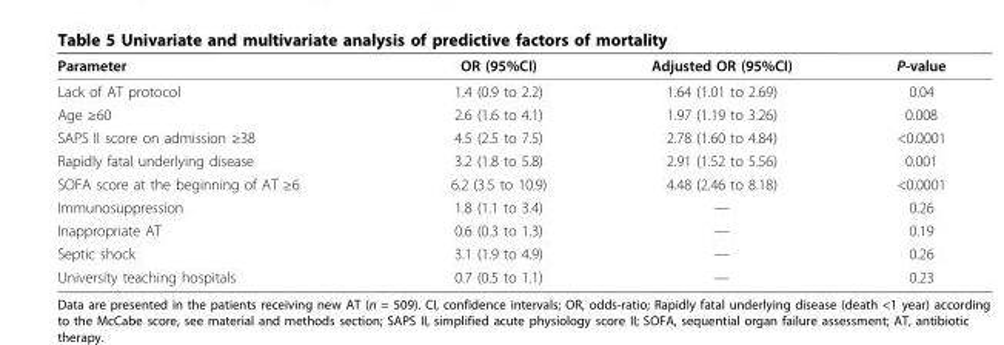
<table><thead><tr><td>Parameter</td><td>OR (95%CI)</td><td>Adjusted OR (95%CI)</td><td>P-value</td></tr></thead><tbody><tr><td>Lack of AT protocol</td><td>1.4 (0.9 to 2.2)</td><td>1.64 (1.01 to 2.69)</td><td>0.04</td></tr><tr><td>Age ≥60</td><td>2.6 (1.6 to 4.1)</td><td>1.97 (1.19 to 3.26)</td><td>0.008</td></tr><tr><td>SAPS II score on admission ≥38</td><td>4.5 (2.5 to 7.5)</td><td>2.78 (1.60 to 4.84)</td><td>&lt;0.0001</td></tr><tr><td>Rapidly fatal underlying disease</td><td>3.2 (1.8 to 5.8)</td><td>2.91 (1.52 to 5.56)</td><td>0.001</td></tr><tr><td>SOFA score at the beginning of AT ≥6</td><td>6.2 (3.5 to 10.9)</td><td>4.48 (2.46 to 8.18)</td><td>&lt;0.0001</td></tr><tr><td>Immunosuppression</td><td>1.8 (1.1 to 3.4)</td><td>—</td><td>0.26</td></tr><tr><td>Inappropriate AT</td><td>0.6 (0.3 to 1.3)</td><td>—</td><td>0.19</td></tr><tr><td>Septic shock</td><td>3.1 (1.9 to 4.9)</td><td>—</td><td>0.26</td></tr><tr><td>University teaching hospitals</td><td>0.7 (0.5 to 1.1)</td><td>—</td><td>0.23</td></tr></tbody></table>